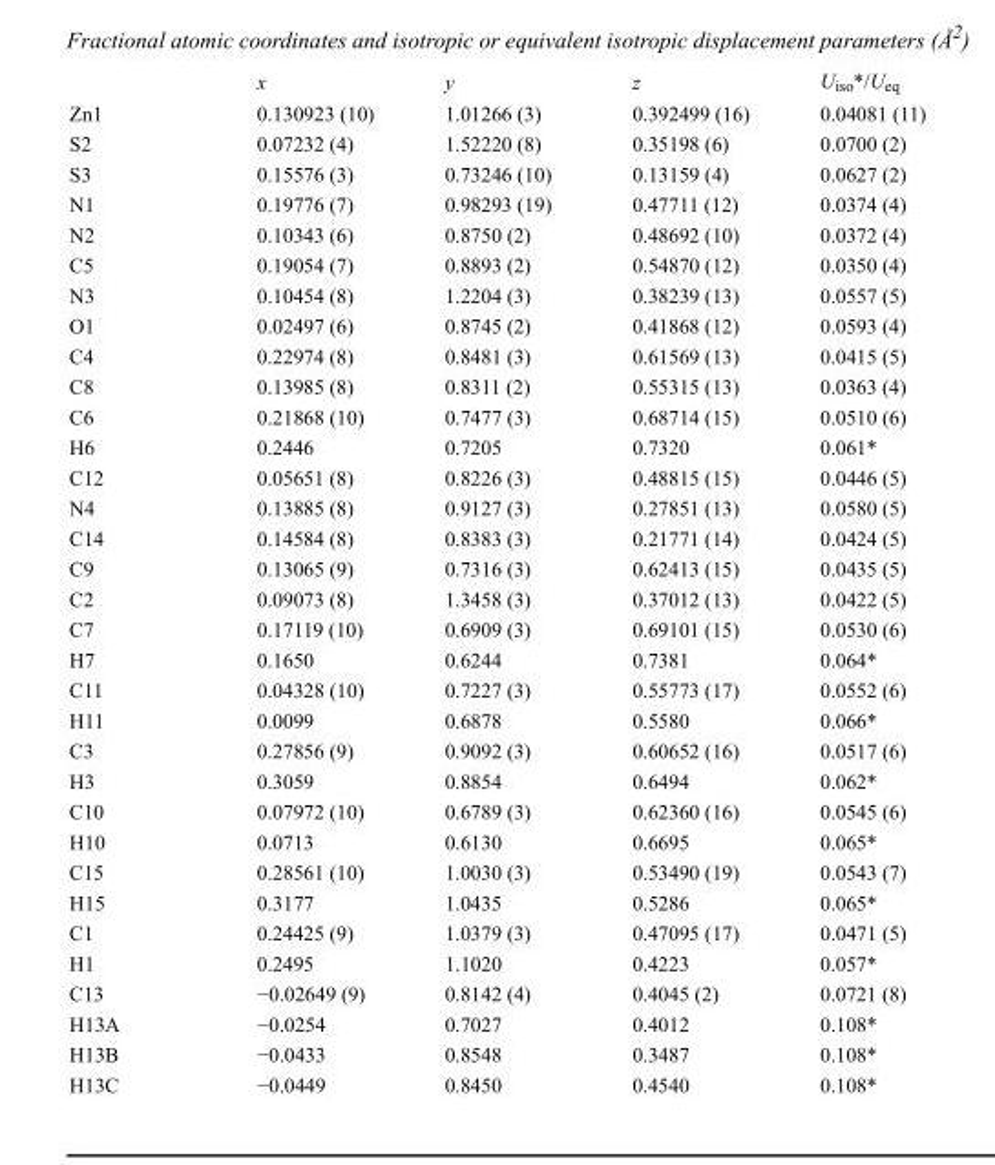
<table><thead><tr><td></td><td>x</td><td>y</td><td>z</td><td>U<sub>iso</sub>*/U<sub>eq</sub></td></tr></thead><tbody><tr><td>Zn1</td><td>0.130923 (10)</td><td>1.01266 (3)</td><td>0.392499 (16)</td><td>0.04081 (11)</td></tr><tr><td>S2</td><td>0.07232 (4)</td><td>1.52220 (8)</td><td>0.35198 (6)</td><td>0.0700 (2)</td></tr><tr><td>S3</td><td>0.15576 (3)</td><td>0.73246 (10)</td><td>0.13159 (4)</td><td>0.0627 (2)</td></tr><tr><td>N1</td><td>0.19776 (7)</td><td>0.98293 (19)</td><td>0.47711 (12)</td><td>0.0374 (4)</td></tr><tr><td>N2</td><td>0.10343 (6)</td><td>0.8750 (2)</td><td>0.48692 (10)</td><td>0.0372 (4)</td></tr><tr><td>C5</td><td>0.19054 (7)</td><td>0.8893 (2)</td><td>0.54870 (12)</td><td>0.0350 (4)</td></tr><tr><td>N3</td><td>0.10454 (8)</td><td>1.2204 (3)</td><td>0.38239 (13)</td><td>0.0557 (5)</td></tr><tr><td>O1</td><td>0.02497 (6)</td><td>0.8745 (2)</td><td>0.41868 (12)</td><td>0.0593 (4)</td></tr><tr><td>C4</td><td>0.22974 (8)</td><td>0.8481 (3)</td><td>0.61569 (13)</td><td>0.0415 (5)</td></tr><tr><td>C8</td><td>0.13985 (8)</td><td>0.8311 (2)</td><td>0.55315 (13)</td><td>0.0363 (4)</td></tr><tr><td>C6</td><td>0.21868 (10)</td><td>0.7477 (3)</td><td>0.68714 (15)</td><td>0.0510 (6)</td></tr><tr><td>H6</td><td>0.2446</td><td>0.7205</td><td>0.7320</td><td>0.061*</td></tr><tr><td>C12</td><td>0.05651 (8)</td><td>0.8226 (3)</td><td>0.48815 (15)</td><td>0.0446 (5)</td></tr><tr><td>N4</td><td>0.13885 (8)</td><td>0.9127 (3)</td><td>0.27851 (13)</td><td>0.0580 (5)</td></tr><tr><td>C14</td><td>0.14584 (8)</td><td>0.8383 (3)</td><td>0.21771 (14)</td><td>0.0424 (5)</td></tr><tr><td>C9</td><td>0.13065 (9)</td><td>0.7316 (3)</td><td>0.62413 (15)</td><td>0.0435 (5)</td></tr><tr><td>C2</td><td>0.09073 (8)</td><td>1.3458 (3)</td><td>0.37012 (13)</td><td>0.0422 (5)</td></tr><tr><td>C7</td><td>0.17119 (10)</td><td>0.6909 (3)</td><td>0.69101 (15)</td><td>0.0530 (6)</td></tr><tr><td>H7</td><td>0.1650</td><td>0.6244</td><td>0.7381</td><td>0.064*</td></tr><tr><td>C11</td><td>0.04328 (10)</td><td>0.7227 (3)</td><td>0.55773 (17)</td><td>0.0552 (6)</td></tr><tr><td>H11</td><td>0.0099</td><td>0.6878</td><td>0.5580</td><td>0.066*</td></tr><tr><td>C3</td><td>0.27856 (9)</td><td>0.9092 (3)</td><td>0.60652 (16)</td><td>0.0517 (6)</td></tr><tr><td>H3</td><td>0.3059</td><td>0.8854</td><td>0.6494</td><td>0.062*</td></tr><tr><td>C10</td><td>0.07972 (10)</td><td>0.6789 (3)</td><td>0.62360 (16)</td><td>0.0545 (6)</td></tr><tr><td>H10</td><td>0.0713</td><td>0.6130</td><td>0.6695</td><td>0.065*</td></tr><tr><td>C15</td><td>0.28561 (10)</td><td>1.0030 (3)</td><td>0.53490 (19)</td><td>0.0543 (7)</td></tr><tr><td>H15</td><td>0.3177</td><td>1.0435</td><td>0.5286</td><td>0.065*</td></tr><tr><td>C1</td><td>0.24425 (9)</td><td>1.0379 (3)</td><td>0.47095 (17)</td><td>0.0471 (5)</td></tr><tr><td>H1</td><td>0.2495</td><td>1.1020</td><td>0.4223</td><td>0.057*</td></tr><tr><td>C13</td><td>−0.02649 (9)</td><td>0.8142 (4)</td><td>0.4045 (2)</td><td>0.0721 (8)</td></tr><tr><td>H13A</td><td>−0.0254</td><td>0.7027</td><td>0.4012</td><td>0.108*</td></tr><tr><td>H13B</td><td>−0.0433</td><td>0.8548</td><td>0.3487</td><td>0.108*</td></tr><tr><td>H13C</td><td>−0.0449</td><td>0.8450</td><td>0.4540</td><td>0.108*</td></tr></tbody></table>